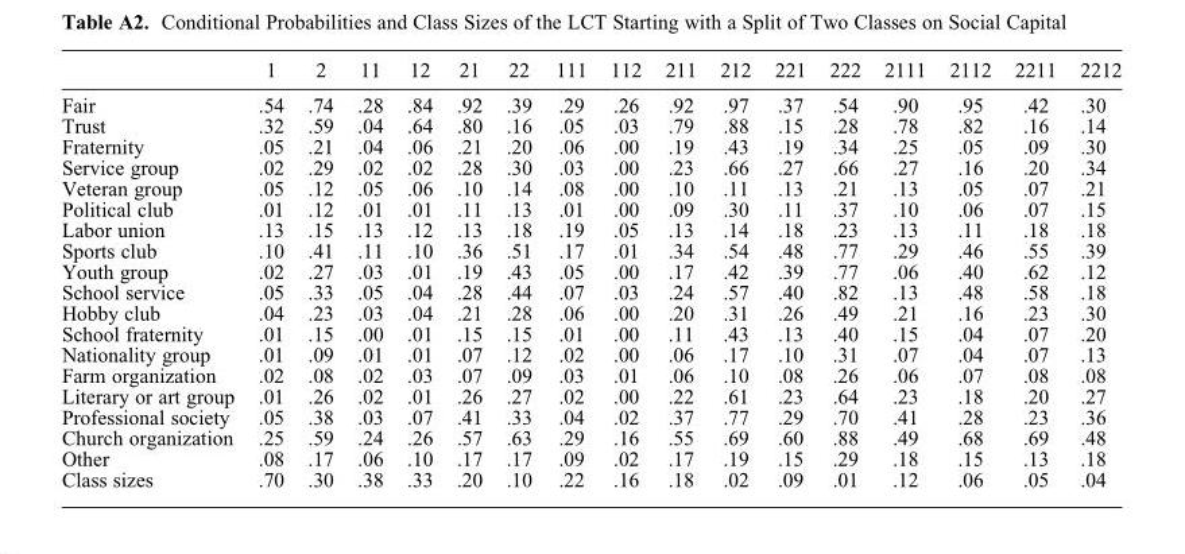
<table><thead><tr><td></td><td>1</td><td>2</td><td>11</td><td>12</td><td>21</td><td>22</td><td>111</td><td>112</td><td>211</td><td>212</td><td>221</td><td>222</td><td>2111</td><td>2112</td><td>2211</td><td>2212</td></tr></thead><tbody><tr><td>Fair</td><td>.54</td><td>.74</td><td>.28</td><td>.84</td><td>.92</td><td>.39</td><td>.29</td><td>.26</td><td>.92</td><td>.97</td><td>.37</td><td>.54</td><td>.90</td><td>.95</td><td>.42</td><td>.30</td></tr><tr><td>Trust</td><td>.32</td><td>.59</td><td>.04</td><td>.64</td><td>.80</td><td>.16</td><td>.05</td><td>.03</td><td>.79</td><td>.88</td><td>.15</td><td>.28</td><td>.78</td><td>.82</td><td>.16</td><td>.14</td></tr><tr><td>Fraternity</td><td>.05</td><td>.21</td><td>.04</td><td>.06</td><td>.21</td><td>.20</td><td>.06</td><td>.00</td><td>.19</td><td>.43</td><td>.19</td><td>.34</td><td>.25</td><td>.05</td><td>.09</td><td>.30</td></tr><tr><td>Service group</td><td>.02</td><td>.29</td><td>.02</td><td>.02</td><td>.28</td><td>.30</td><td>.03</td><td>.00</td><td>.23</td><td>.66</td><td>.27</td><td>.66</td><td>.27</td><td>.16</td><td>.20</td><td>.34</td></tr><tr><td>Veteran group</td><td>.05</td><td>.12</td><td>.05</td><td>.06</td><td>.10</td><td>.14</td><td>.08</td><td>.00</td><td>.10</td><td>.11</td><td>.13</td><td>.21</td><td>.13</td><td>.05</td><td>.07</td><td>.21</td></tr><tr><td>Political club</td><td>.01</td><td>.12</td><td>.01</td><td>.01</td><td>.11</td><td>.13</td><td>.01</td><td>.00</td><td>.09</td><td>.30</td><td>.11</td><td>.37</td><td>.10</td><td>.06</td><td>.07</td><td>.15</td></tr><tr><td>Labor union</td><td>.13</td><td>.15</td><td>.13</td><td>.12</td><td>.13</td><td>.18</td><td>.19</td><td>.05</td><td>.13</td><td>.14</td><td>.18</td><td>.23</td><td>.13</td><td>.11</td><td>.18</td><td>.18</td></tr><tr><td>Sports club</td><td>.10</td><td>.41</td><td>.11</td><td>.10</td><td>.36</td><td>.51</td><td>.17</td><td>.01</td><td>.34</td><td>.54</td><td>.48</td><td>.77</td><td>.29</td><td>.46</td><td>.55</td><td>.39</td></tr><tr><td>Youth group</td><td>.02</td><td>.27</td><td>.03</td><td>.01</td><td>.19</td><td>.43</td><td>.05</td><td>.00</td><td>.17</td><td>.42</td><td>.39</td><td>.77</td><td>.06</td><td>.40</td><td>.62</td><td>.12</td></tr><tr><td>School service</td><td>.05</td><td>.33</td><td>.05</td><td>.04</td><td>.28</td><td>.44</td><td>.07</td><td>.03</td><td>.24</td><td>.57</td><td>.40</td><td>.82</td><td>.13</td><td>.48</td><td>.58</td><td>.18</td></tr><tr><td>Hobby club</td><td>.04</td><td>.23</td><td>.03</td><td>.04</td><td>.21</td><td>.28</td><td>.06</td><td>.00</td><td>.20</td><td>.31</td><td>.26</td><td>.49</td><td>.21</td><td>.16</td><td>.23</td><td>.30</td></tr><tr><td>School fraternity</td><td>.01</td><td>.15</td><td>.00</td><td>.01</td><td>.15</td><td>.15</td><td>.01</td><td>.00</td><td>.11</td><td>.43</td><td>.13</td><td>.40</td><td>.15</td><td>.04</td><td>.07</td><td>.20</td></tr><tr><td>Nationality group</td><td>.01</td><td>.09</td><td>.01</td><td>.01</td><td>.07</td><td>.12</td><td>.02</td><td>.00</td><td>.06</td><td>.17</td><td>.10</td><td>.31</td><td>.07</td><td>.04</td><td>.07</td><td>.13</td></tr><tr><td>Farm organization</td><td>.02</td><td>.08</td><td>.02</td><td>.03</td><td>.07</td><td>.09</td><td>.03</td><td>.01</td><td>.06</td><td>.10</td><td>.08</td><td>.26</td><td>.06</td><td>.07</td><td>.08</td><td>.08</td></tr><tr><td>Literary or art group</td><td>.01</td><td>.26</td><td>.02</td><td>.01</td><td>.26</td><td>.27</td><td>.02</td><td>.00</td><td>.22</td><td>.61</td><td>.23</td><td>.64</td><td>.23</td><td>.18</td><td>.20</td><td>.27</td></tr><tr><td>Professional society</td><td>.05</td><td>.38</td><td>.03</td><td>.07</td><td>.41</td><td>.33</td><td>.04</td><td>.02</td><td>.37</td><td>.77</td><td>.29</td><td>.70</td><td>.41</td><td>.28</td><td>.23</td><td>.36</td></tr><tr><td>Church organization</td><td>.25</td><td>.59</td><td>.24</td><td>.26</td><td>.57</td><td>.63</td><td>.29</td><td>.16</td><td>.55</td><td>.69</td><td>.60</td><td>.88</td><td>.49</td><td>.68</td><td>.69</td><td>.48</td></tr><tr><td>Other</td><td>.08</td><td>.17</td><td>.06</td><td>.10</td><td>.17</td><td>.17</td><td>.09</td><td>.02</td><td>.17</td><td>.19</td><td>.15</td><td>.29</td><td>.18</td><td>.15</td><td>.13</td><td>.18</td></tr><tr><td>Class sizes</td><td>.70</td><td>.30</td><td>.38</td><td>.33</td><td>.20</td><td>.10</td><td>.22</td><td>.16</td><td>.18</td><td>.02</td><td>.09</td><td>.01</td><td>.12</td><td>.06</td><td>.05</td><td>.04</td></tr></tbody></table>